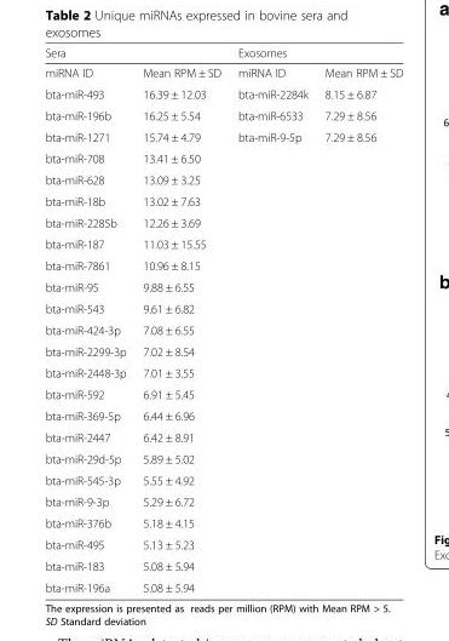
<table><thead><tr><td colspan="2">Sera</td><td colspan="2">Exosomes</td></tr><tr><td>miRNA ID</td><td>Mean RPM ± SD</td><td>miRNA ID</td><td>Mean RPM ± SD</td></tr></thead><tbody><tr><td>bta-miR-493</td><td>16.39 ± 12.03</td><td>bta-miR-2284k</td><td>8.15 ± 6.87</td></tr><tr><td>bta-miR-196b</td><td>16.25 ± 5.54</td><td>bta-miR-6533</td><td>7.29 ± 8.56</td></tr><tr><td>bta-miR-1271</td><td>15.74 ± 4.79</td><td>bta-miR-9-5p</td><td>7.29 ± 8.56</td></tr><tr><td>bta-miR-708</td><td>13.41 ± 6.50</td><td></td><td></td></tr><tr><td>bta-miR-628</td><td>13.09 ± 3.25</td><td></td><td></td></tr><tr><td>bta-miR-18b</td><td>13.02 ± 7.63</td><td></td><td></td></tr><tr><td>bta-miR-2285b</td><td>12.26 ± 3.69</td><td></td><td></td></tr><tr><td>bta-miR-187</td><td>11.03 ± 15.55</td><td></td><td></td></tr><tr><td>bta-miR-7861</td><td>10.96 ± 8.15</td><td></td><td></td></tr><tr><td>bta-miR-95</td><td>9.88 ± 6.55</td><td></td><td></td></tr><tr><td>bta-miR-543</td><td>9.61 ± 6.82</td><td></td><td></td></tr><tr><td>bta-miR-424-3p</td><td>7.08 ± 6.55</td><td></td><td></td></tr><tr><td>bta-miR-2299-3p</td><td>7.02 ± 8.54</td><td></td><td></td></tr><tr><td>bta-miR-2448-3p</td><td>7.01 ± 3.55</td><td></td><td></td></tr><tr><td>bta-miR-592</td><td>6.91 ± 5.45</td><td></td><td></td></tr><tr><td>bta-miR-369-5p</td><td>6.44 ± 6.96</td><td></td><td></td></tr><tr><td>bta-miR-2447</td><td>6.42 ± 8.91</td><td></td><td></td></tr><tr><td>bta-miR-29d-5p</td><td>5.89 ± 5.02</td><td></td><td></td></tr><tr><td>bta-miR-545-3p</td><td>5.55 ± 4.92</td><td></td><td></td></tr><tr><td>bta-miR-9-3p</td><td>5.29 ± 6.72</td><td></td><td></td></tr><tr><td>bta-miR-376b</td><td>5.18 ± 4.15</td><td></td><td></td></tr><tr><td>bta-miR-495</td><td>5.13 ± 5.23</td><td></td><td></td></tr><tr><td>bta-miR-183</td><td>5.08 ± 5.94</td><td></td><td></td></tr><tr><td>bta-miR-196a</td><td>5.08 ± 5.94</td><td></td><td></td></tr></tbody></table>